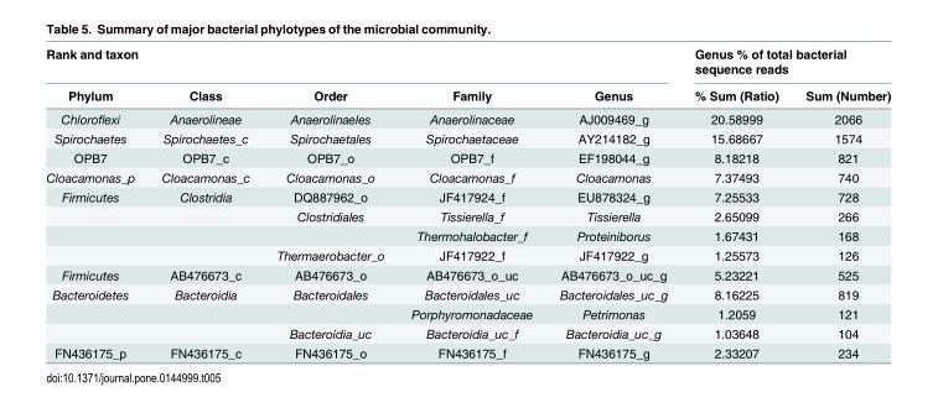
<table><thead><tr><td colspan="5">Rank and taxon</td><td colspan="2">Genus % of total bacterial sequence reads</td></tr><tr><td>Phylum</td><td>Class</td><td>Order</td><td>Family</td><td>Genus</td><td>% Sum (Ratio)</td><td>Sum (Number)</td></tr></thead><tbody><tr><td>Chloroflexi</td><td>Anaerolineae</td><td>Anaerolinaeles</td><td>Anaerolinaceae</td><td>AJ009469_g</td><td>20.58999</td><td>2066</td></tr><tr><td>Spirochaetes</td><td>Spirochaetes_c</td><td>Spirochaetales</td><td>Spirochaetaceae</td><td>AY214182_g</td><td>15.68667</td><td>1574</td></tr><tr><td>OPB7</td><td>OPB7_c</td><td>OPB7_o</td><td>OPB7_f</td><td>EF198044_g</td><td>8.18218</td><td>821</td></tr><tr><td>Cloacamonas_p</td><td>Cloacamonas_c</td><td>Cloacamonas_o</td><td>Cloacamonas_f</td><td>Cloacamonas</td><td>7.37493</td><td>740</td></tr><tr><td rowspan="4">Firmicutes</td><td>Clostridia</td><td>DQ887962_o</td><td>JF417924_f</td><td>EU878324_g</td><td>7.25533</td><td>728</td></tr><tr><td></td><td>Clostridiales</td><td>Tissierella_f</td><td>Tissierella</td><td>2.65099</td><td>266</td></tr><tr><td></td><td></td><td>Thermohalobacter_f</td><td>Proteiniborus</td><td>1.67431</td><td>168</td></tr><tr><td></td><td>Thermaerobacter_o</td><td>JF417922_f</td><td>JF417922_g</td><td>1.25573</td><td>126</td></tr><tr><td>Firmicutes</td><td>AB476673_c</td><td>AB476673_o</td><td>AB476673_o_uc</td><td>AB476673_o_uc_g</td><td>5.23221</td><td>525</td></tr><tr><td rowspan="3">Bacteroidetes</td><td>Bacteroidia</td><td>Bacteroidales</td><td>Bacteroidales_uc</td><td>Bacteroidales_uc_g</td><td>8.16225</td><td>819</td></tr><tr><td></td><td></td><td>Porphyromonadaceae</td><td>Petrimonas</td><td>1.2059</td><td>121</td></tr><tr><td></td><td>Bacteroidia_uc</td><td>Bacteroidia_uc_f</td><td>Bacteroidia_uc_g</td><td>1.03648</td><td>104</td></tr><tr><td>FN436175_p</td><td>FN436175_c</td><td>FN436175_o</td><td>FN436175_f</td><td>FN436175_g</td><td>2.33207</td><td>234</td></tr></tbody></table>